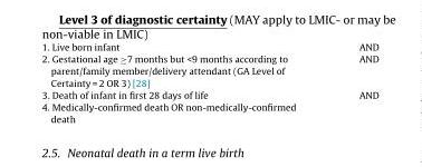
<table><tbody><tr><td>1. Live born infant</td><td>AND</td></tr><tr><td>2. Gestational age ≥7 months but &lt;9 months according to parent/family member/delivery attendant (GA Level of Certainty = 2 OR 3) [28]</td><td>AND</td></tr><tr><td>3. Death of infant in first 28 days of life</td><td>AND</td></tr><tr><td>4. Medically-confirmed death OR non-medically-confirmed death</td><td></td></tr></tbody></table>